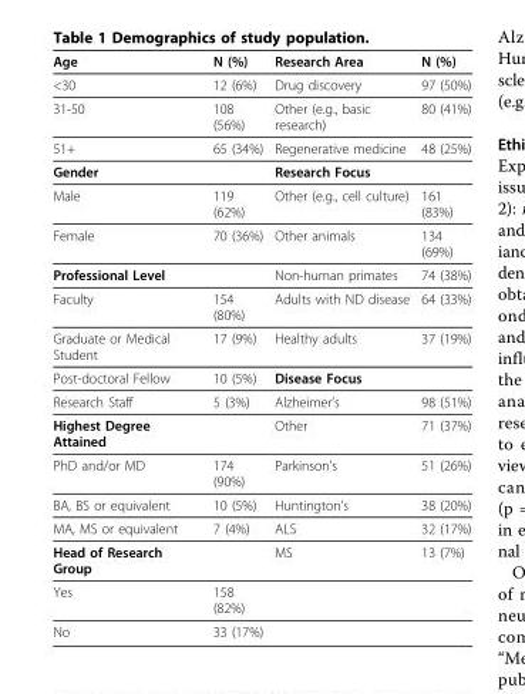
<table><thead><tr><td>Age</td><td>N (%)</td><td>Research Area</td><td>N (%)</td></tr></thead><tbody><tr><td>&lt;30</td><td>12 (6%)</td><td>Drug discovery</td><td>97 (50%)</td></tr><tr><td>31-50</td><td>108 (56%)</td><td>Other (e.g., basic research)</td><td>80 (41%)</td></tr><tr><td>51+</td><td>65 (34%)</td><td>Regenerative medicine</td><td>48 (25%)</td></tr><tr><td>Gender</td><td></td><td>Research Focus</td><td></td></tr><tr><td>Male</td><td>119 (62%)</td><td>Other (e.g., cell culture)</td><td>161 (83%)</td></tr><tr><td>Female</td><td>70 (36%)</td><td>Other animals</td><td>134 (69%)</td></tr><tr><td>Professional Level</td><td></td><td>Non-human primates</td><td>74 (38%)</td></tr><tr><td>Faculty</td><td>154 (80%)</td><td>Adults with ND disease</td><td>64 (33%)</td></tr><tr><td>Graduate or Medical Student</td><td>17 (9%)</td><td>Healthy adults</td><td>37 (19%)</td></tr><tr><td>Post-doctoral Fellow</td><td>10 (5%)</td><td>Disease Focus</td><td></td></tr><tr><td>Research Staff</td><td>5 (3%)</td><td>Alzheimer’s</td><td>98 (51%)</td></tr><tr><td>Highest Degree Attained</td><td></td><td>Other</td><td>71 (37%)</td></tr><tr><td>PhD and/or MD</td><td>174 (90%)</td><td>Parkinson’s</td><td>51 (26%)</td></tr><tr><td>BA, BS or equivalent</td><td>10 (5%)</td><td>Huntington’s</td><td>38 (20%)</td></tr><tr><td>MA, MS or equivalent</td><td>7 (4%)</td><td>ALS</td><td>32 (17%)</td></tr><tr><td>Head of Research Group</td><td></td><td>MS</td><td>13 (7%)</td></tr><tr><td>Yes</td><td>158 (82%)</td><td></td><td></td></tr><tr><td>No</td><td>33 (17%)</td><td></td><td></td></tr></tbody></table>